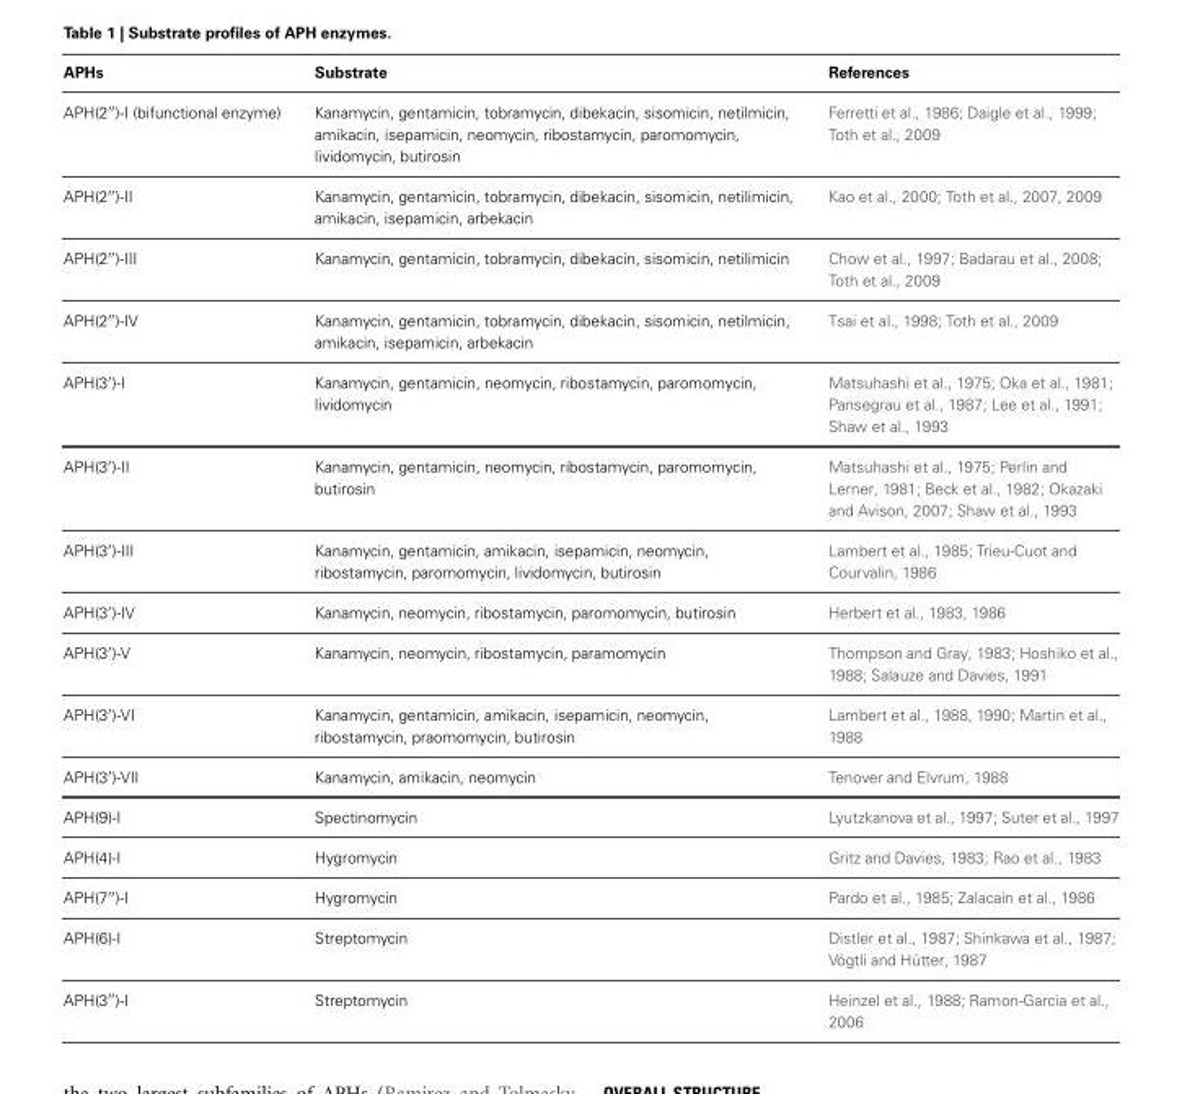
<table><thead><tr><td>APHs</td><td>Substrate</td><td>References</td></tr></thead><tbody><tr><td>APH(2′′)-I (bifunctional enzyme)</td><td>Kanamycin, gentamicin, tobramycin, dibekacin, sisomicin, netilmicin, amikacin, isepamicin, neomycin, ribostamycin, paromomycin, lividomycin, butirosin</td><td>Ferretti et al., 1986; Daigle et al., 1999; Toth et al., 2009</td></tr><tr><td>APH(2′′)-II</td><td>Kanamycin, gentamicin, tobramycin, dibekacin, sisomicin, netilimicin, amikacin, isepamicin, arbekacin</td><td>Kao et al., 2000; Toth et al., 2007, 2009</td></tr><tr><td>APH(2′′)-III</td><td>Kanamycin, gentamicin, tobramycin, dibekacin, sisomicin, netilimicin</td><td>Chow et al., 1997; Badarau et al., 2008; Toth et al., 2009</td></tr><tr><td>APH(2′′)-IV</td><td>Kanamycin, gentamicin, tobramycin, dibekacin, sisomicin, netilmicin, amikacin, isepamicin, arbekacin</td><td>Tsai et al., 1998; Toth et al., 2009</td></tr><tr><td>APH(3′)-I</td><td>Kanamycin, gentamicin, neomycin, ribostamycin, paromomycin, lividomycin</td><td>Matsuhashi et al., 1975; Oka et al., 1981; Pansegrau et al., 1987; Lee et al., 1991; Shaw et al., 1993</td></tr><tr><td>APH(3′)-II</td><td>Kanamycin, gentamicin, neomycin, ribostamycin, paromomycin, butirosin</td><td>Matsuhashi et al., 1975; Perlin and Lerner, 1981; Beck et al., 1982; Okazaki and Avison, 2007; Shaw et al., 1993</td></tr><tr><td>APH(3′)-III</td><td>Kanamycin, gentamicin, amikacin, isepamicin, neomycin, ribostamycin, paromomycin, lividomycin, butirosin</td><td>Lambert et al., 1985; Trieu-Cuot and Courvalin, 1986</td></tr><tr><td>APH(3′)-IV</td><td>Kanamycin, neomycin, ribostamycin, paromomycin, butirosin</td><td>Herbert et al., 1983, 1986</td></tr><tr><td>APH(3′)-V</td><td>Kanamycin, neomycin, ribostamycin, paramomycin</td><td>Thompson and Gray, 1983; Hoshiko et al., 1988; Salauze and Davies, 1991</td></tr><tr><td>APH(3′)-VI</td><td>Kanamycin, gentamicin, amikacin, isepamicin, neomycin, ribostamycin, praomomycin, butirosin</td><td>Lambert et al., 1988, 1990; Martin et al., 1988</td></tr><tr><td>APH(3′)-VII</td><td>Kanamycin, amikacin, neomycin</td><td>Tenover and Elvrum, 1988</td></tr><tr><td>APH(9)-I</td><td>Spectinomycin</td><td>Lyutzkanova et al., 1997; Suter et al., 1997</td></tr><tr><td>APH(4)-I</td><td>Hygromycin</td><td>Gritz and Davies, 1983; Rao et al., 1983</td></tr><tr><td>APH(7′′)-I</td><td>Hygromycin</td><td>Pardo et al., 1985; Zalacain et al., 1986</td></tr><tr><td>APH(6)-I</td><td>Streptomycin</td><td>Distler et al., 1987; Shinkawa et al., 1987; Vögtli and Hütter, 1987</td></tr><tr><td>APH(3′′)-I</td><td>Streptomycin</td><td>Heinzel et al., 1988; Ramon-Garcia et al., 2006</td></tr></tbody></table>